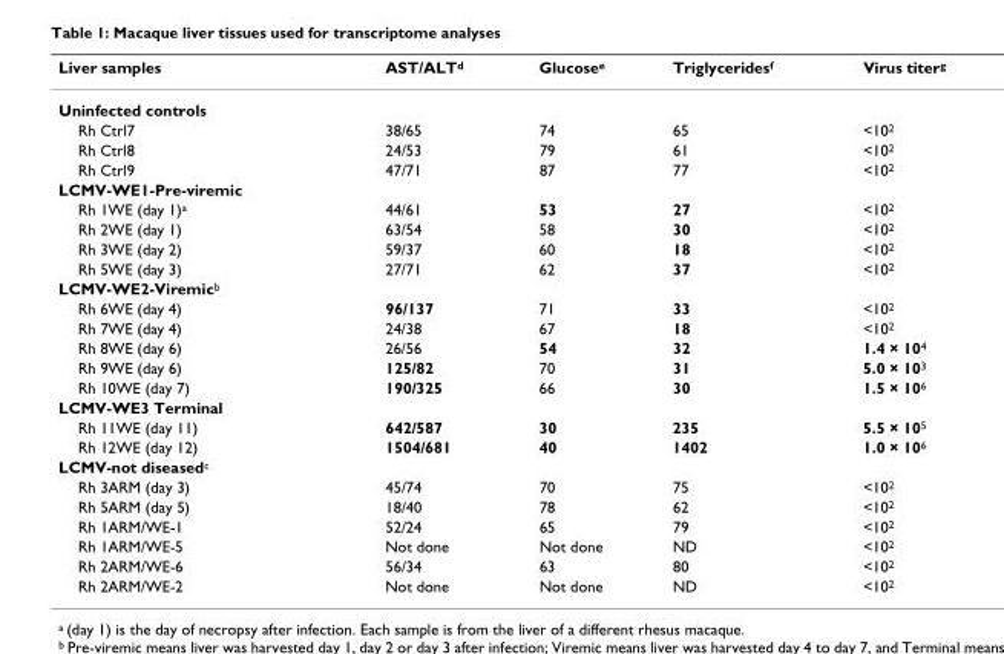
<table><thead><tr><td>Liver samples</td><td>AST/ALT<sup>d</sup></td><td>Glucose<sup>e</sup></td><td>Triglycerides<sup>f</sup></td><td>Virus titer<sup>g</sup></td></tr></thead><tbody><tr><td colspan="5">Uninfected controls</td></tr><tr><td>Rh Ctrl7</td><td>38/65</td><td>74</td><td>65</td><td>&lt;10<sup>2</sup></td></tr><tr><td>Rh Ctrl8</td><td>24/53</td><td>79</td><td>61</td><td>&lt;10<sup>2</sup></td></tr><tr><td>Rh Ctrl9</td><td>47/71</td><td>87</td><td>77</td><td>&lt;10<sup>2</sup></td></tr><tr><td colspan="5">LCMV-WE1-Pre-viremic</td></tr><tr><td>Rh 1WE (day 1)<sup>a</sup></td><td>44/61</td><td>53</td><td>27</td><td>&lt;10<sup>2</sup></td></tr><tr><td>Rh 2WE (day 1)</td><td>63/54</td><td>58</td><td>30</td><td>&lt;10<sup>2</sup></td></tr><tr><td>Rh 3WE (day 2)</td><td>59/37</td><td>60</td><td>18</td><td>&lt;10<sup>2</sup></td></tr><tr><td>Rh 5WE (day 3)</td><td>27/71</td><td>62</td><td>37</td><td>&lt;10<sup>2</sup></td></tr><tr><td colspan="5">LCMV-WE2-Viremic<sup>b</sup></td></tr><tr><td>Rh 6WE (day 4)</td><td>96/137</td><td>71</td><td>33</td><td>&lt;10<sup>2</sup></td></tr><tr><td>Rh 7WE (day 4)</td><td>24/38</td><td>67</td><td>18</td><td>&lt;10<sup>2</sup></td></tr><tr><td>Rh 8WE (day 6)</td><td>26/56</td><td>54</td><td>32</td><td>1.4 × 10<sup>4</sup></td></tr><tr><td>Rh 9WE (day 6)</td><td>125/82</td><td>70</td><td>31</td><td>5.0 × 10<sup>3</sup></td></tr><tr><td>Rh 10WE (day 7)</td><td>190/325</td><td>66</td><td>30</td><td>1.5 × 10<sup>6</sup></td></tr><tr><td colspan="5">LCMV-WE3 Terminal</td></tr><tr><td>Rh 11WE (day 11)</td><td>642/587</td><td>30</td><td>235</td><td>5.5 × 10<sup>5</sup></td></tr><tr><td>Rh 12WE (day 12)</td><td>1504/681</td><td>40</td><td>1402</td><td>1.0 × 10<sup>6</sup></td></tr><tr><td colspan="5">LCMV-not diseased<sup>c</sup></td></tr><tr><td>Rh 3ARM (day 3)</td><td>45/74</td><td>70</td><td>75</td><td>&lt;10<sup>2</sup></td></tr><tr><td>Rh 5ARM (day 5)</td><td>18/40</td><td>78</td><td>62</td><td>&lt;10<sup>2</sup></td></tr><tr><td>Rh 1ARM/WE-1</td><td>52/24</td><td>65</td><td>79</td><td>&lt;10<sup>2</sup></td></tr><tr><td>Rh 1ARM/WE-5</td><td>Not done</td><td>Not done</td><td>ND</td><td>&lt;10<sup>2</sup></td></tr><tr><td>Rh 2ARM/WE-6</td><td>56/34</td><td>63</td><td>80</td><td>&lt;10<sup>2</sup></td></tr><tr><td>Rh 2ARM/WE-2</td><td>Not done</td><td>Not done</td><td>ND</td><td>&lt;10<sup>2</sup></td></tr></tbody></table>